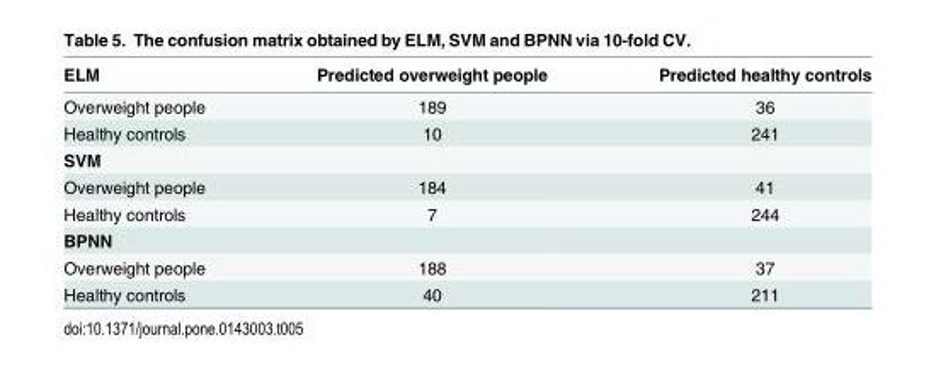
<table><thead><tr><td>ELM</td><td>Predicted overweight people</td><td>Predicted healthy controls</td></tr></thead><tbody><tr><td>Overweight people</td><td>189</td><td>36</td></tr><tr><td>Healthy controls</td><td>10</td><td>241</td></tr><tr><td colspan="3">SVM</td></tr><tr><td>Overweight people</td><td>184</td><td>41</td></tr><tr><td>Healthy controls</td><td>7</td><td>244</td></tr><tr><td colspan="3">BPNN</td></tr><tr><td>Overweight people</td><td>188</td><td>37</td></tr><tr><td>Healthy controls</td><td>40</td><td>211</td></tr></tbody></table>